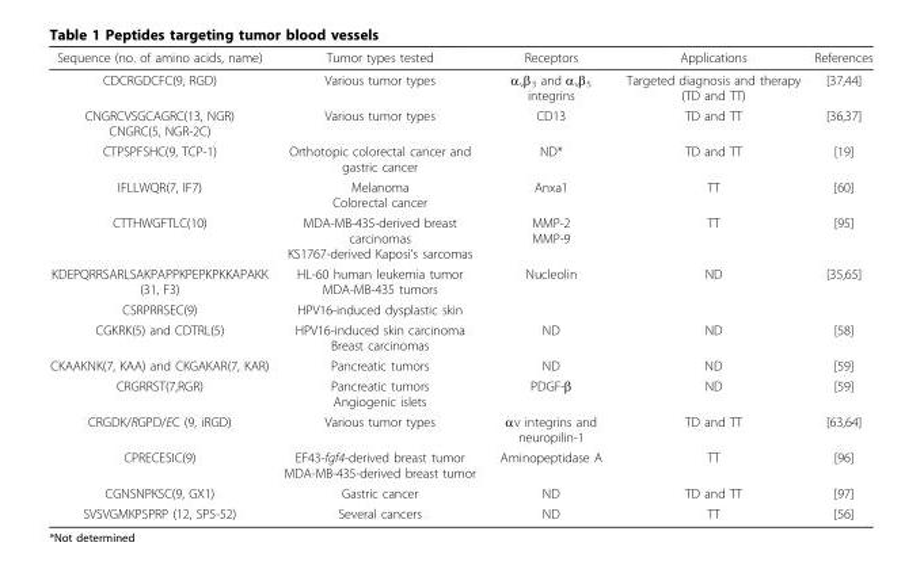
<table><thead><tr><td>Sequence (no. of amino acids, name)</td><td>Tumor types tested</td><td>Receptors</td><td>Applications</td><td>References</td></tr></thead><tbody><tr><td>CDCRGDCFC(9, RGD)</td><td>Various tumor types</td><td>α<sub>v</sub>β<sub>3</sub> and α<sub>v</sub>β<sub>5</sub> integrins</td><td>Targeted diagnosis and therapy (TD and TT)</td><td>[37,44]</td></tr><tr><td>CNGRCVSGCAGRC(13, NGR) CNGRC(5, NGR-2C)</td><td>Various tumor types</td><td>CD13</td><td>TD and TT</td><td>[36,37]</td></tr><tr><td>CTPSPFSHC(9, TCP-1)</td><td>Orthotopic colorectal cancer and gastric cancer</td><td>ND*</td><td>TD and TT</td><td>[19]</td></tr><tr><td>IFLLWQR(7, IF7)</td><td>Melanoma Colorectal cancer</td><td>Anxa1</td><td>TT</td><td>[60]</td></tr><tr><td>CTTHWGFTLC(10)</td><td>MDA-MB-435-derived breast carcinomas KS1767-derived Kaposi’s sarcomas</td><td>MMP-2 MMP-9</td><td>TT</td><td>[95]</td></tr><tr><td>KDEPQRRSARLSAKPAPPKPEPKPKKAPAKK (31, F3)</td><td>HL-60 human leukemia tumor MDA-MB-435 tumors</td><td>Nucleolin</td><td>ND</td><td>[35,65]</td></tr><tr><td>CSRPRRSEC(9)</td><td>HPV16-induced dysplastic skin</td><td></td><td></td><td></td></tr><tr><td>CGKRK(5) and CDTRL(5)</td><td>HPV16-induced skin carcinoma Breast carcinomas</td><td>ND</td><td>ND</td><td>[58]</td></tr><tr><td>CKAAKNK(7, KAA) and CKGAKAR(7, KAR)</td><td>Pancreatic tumors</td><td>ND</td><td>ND</td><td>[59]</td></tr><tr><td>CRGRRST(7,RGR)</td><td>Pancreatic tumors Angiogenic islets</td><td>PDGF-β</td><td>ND</td><td>[59]</td></tr><tr><td>CRGDK/RGPD/EC (9, iRGD)</td><td>Various tumor types</td><td>αv integrins and neuropilin-1</td><td>TD and TT</td><td>[63,64]</td></tr><tr><td>CPRECESIC(9)</td><td>EF43-fgf4-derived breast tumor MDA-MB-435-derived breast tumor</td><td>Aminopeptidase A</td><td>TT</td><td>[96]</td></tr><tr><td>CGNSNPKSC(9, GX1)</td><td>Gastric cancer</td><td>ND</td><td>TD and TT</td><td>[97]</td></tr><tr><td>SVSVGMKPSPRP (12, SP5-52)</td><td>Several cancers</td><td>ND</td><td>TT</td><td>[56]</td></tr></tbody></table>